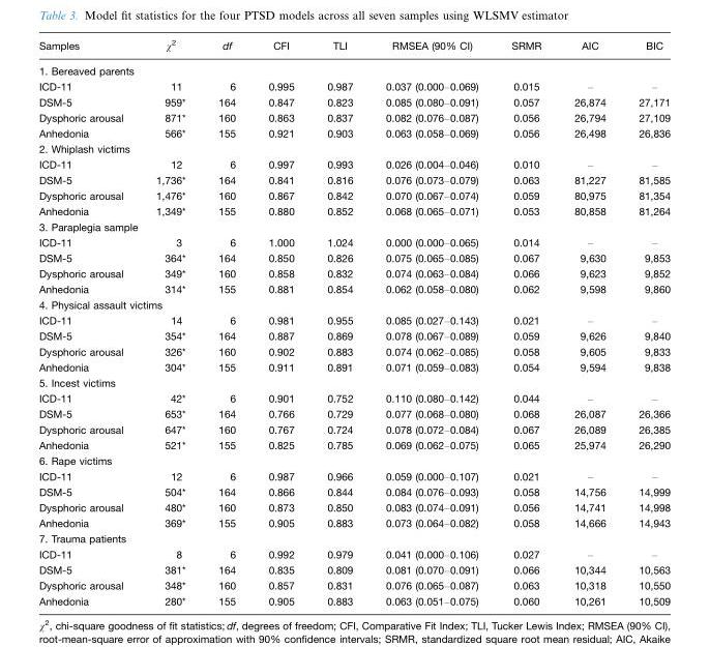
<table><thead><tr><td>Samples</td><td>χ<sup>2</sup></td><td>df</td><td>CFI</td><td>TLI</td><td>RMSEA (90% CI)</td><td>SRMR</td><td>AIC</td><td>BIC</td></tr></thead><tbody><tr><td colspan="9">1. Bereaved parents</td></tr><tr><td>ICD-11</td><td>11</td><td>6</td><td>0.995</td><td>0.987</td><td>0.037 (0.000–0.069)</td><td>0.015</td><td>–</td><td>–</td></tr><tr><td>DSM-5</td><td>959*</td><td>164</td><td>0.847</td><td>0.823</td><td>0.085 (0.080–0.091)</td><td>0.057</td><td>26,874</td><td>27,171</td></tr><tr><td>Dysphoric arousal</td><td>871*</td><td>160</td><td>0.863</td><td>0.837</td><td>0.082 (0.076–0.087)</td><td>0.056</td><td>26,794</td><td>27,109</td></tr><tr><td>Anhedonia</td><td>566*</td><td>155</td><td>0.921</td><td>0.903</td><td>0.063 (0.058–0.069)</td><td>0.056</td><td>26,498</td><td>26,836</td></tr><tr><td colspan="9">2. Whiplash victims</td></tr><tr><td>ICD-11</td><td>12</td><td>6</td><td>0.997</td><td>0.993</td><td>0.026 (0.004–0.046)</td><td>0.010</td><td>–</td><td>–</td></tr><tr><td>DSM-5</td><td>1,736*</td><td>164</td><td>0.841</td><td>0.816</td><td>0.076 (0.073–0.079)</td><td>0.063</td><td>81,227</td><td>81,585</td></tr><tr><td>Dysphoric arousal</td><td>1,476*</td><td>160</td><td>0.867</td><td>0.842</td><td>0.070 (0.067–0.074)</td><td>0.059</td><td>80,975</td><td>81,354</td></tr><tr><td>Anhedonia</td><td>1,349*</td><td>155</td><td>0.880</td><td>0.852</td><td>0.068 (0.065–0.071)</td><td>0.053</td><td>80,858</td><td>81,264</td></tr><tr><td colspan="9">3. Paraplegia sample</td></tr><tr><td>ICD-11</td><td>3</td><td>6</td><td>1.000</td><td>1.024</td><td>0.000 (0.000–0.065)</td><td>0.014</td><td>–</td><td>–</td></tr><tr><td>DSM-5</td><td>364*</td><td>164</td><td>0.850</td><td>0.826</td><td>0.075 (0.065–0.085)</td><td>0.067</td><td>9,630</td><td>9,853</td></tr><tr><td>Dysphoric arousal</td><td>349*</td><td>160</td><td>0.858</td><td>0.832</td><td>0.074 (0.063–0.084)</td><td>0.066</td><td>9,623</td><td>9,852</td></tr><tr><td>Anhedonia</td><td>314*</td><td>155</td><td>0.881</td><td>0.854</td><td>0.062 (0.058–0.080)</td><td>0.062</td><td>9,598</td><td>9,860</td></tr><tr><td colspan="9">4. Physical assault victims</td></tr><tr><td>ICD-11</td><td>14</td><td>6</td><td>0.981</td><td>0.955</td><td>0.085 (0.027–0.143)</td><td>0.021</td><td>–</td><td>–</td></tr><tr><td>DSM-5</td><td>354*</td><td>164</td><td>0.887</td><td>0.869</td><td>0.078 (0.067–0.089)</td><td>0.059</td><td>9,626</td><td>9,840</td></tr><tr><td>Dysphoric arousal</td><td>326*</td><td>160</td><td>0.902</td><td>0.883</td><td>0.074 (0.062–0.085)</td><td>0.058</td><td>9,605</td><td>9,833</td></tr><tr><td>Anhedonia</td><td>304*</td><td>155</td><td>0.911</td><td>0.891</td><td>0.071 (0.059–0.083)</td><td>0.054</td><td>9,594</td><td>9,838</td></tr><tr><td colspan="9">5. Incest victims</td></tr><tr><td>ICD-11</td><td>42*</td><td>6</td><td>0.901</td><td>0.752</td><td>0.110 (0.080–0.142)</td><td>0.044</td><td>–</td><td>–</td></tr><tr><td>DSM-5</td><td>653*</td><td>164</td><td>0.766</td><td>0.729</td><td>0.077 (0.068–0.080)</td><td>0.068</td><td>26,087</td><td>26,366</td></tr><tr><td>Dysphoric arousal</td><td>647*</td><td>160</td><td>0.767</td><td>0.724</td><td>0.078 (0.072–0.084)</td><td>0.067</td><td>26,089</td><td>26,385</td></tr><tr><td>Anhedonia</td><td>521*</td><td>155</td><td>0.825</td><td>0.785</td><td>0.069 (0.062–0.075)</td><td>0.065</td><td>25,974</td><td>26,290</td></tr><tr><td colspan="9">6. Rape victims</td></tr><tr><td>ICD-11</td><td>12</td><td>6</td><td>0.987</td><td>0.966</td><td>0.059 (0.000–0.107)</td><td>0.021</td><td>–</td><td>–</td></tr><tr><td>DSM-5</td><td>504*</td><td>164</td><td>0.866</td><td>0.844</td><td>0.084 (0.076–0.093)</td><td>0.058</td><td>14,756</td><td>14,999</td></tr><tr><td>Dysphoric arousal</td><td>480*</td><td>160</td><td>0.873</td><td>0.850</td><td>0.083 (0.074–0.091)</td><td>0.056</td><td>14,741</td><td>14,998</td></tr><tr><td>Anhedonia</td><td>369*</td><td>155</td><td>0.905</td><td>0.883</td><td>0.073 (0.064–0.082)</td><td>0.058</td><td>14,666</td><td>14,943</td></tr><tr><td colspan="9">7. Trauma patients</td></tr><tr><td>ICD-11</td><td>8</td><td>6</td><td>0.992</td><td>0.979</td><td>0.041 (0.000–0.106)</td><td>0.027</td><td>–</td><td>–</td></tr><tr><td>DSM-5</td><td>381*</td><td>164</td><td>0.835</td><td>0.809</td><td>0.081 (0.070–0.091)</td><td>0.066</td><td>10,344</td><td>10,563</td></tr><tr><td>Dysphoric arousal</td><td>348*</td><td>160</td><td>0.857</td><td>0.831</td><td>0.076 (0.065–0.087)</td><td>0.063</td><td>10,318</td><td>10,550</td></tr><tr><td>Anhedonia</td><td>280*</td><td>155</td><td>0.905</td><td>0.883</td><td>0.063 (0.051–0.075)</td><td>0.060</td><td>10,261</td><td>10,509</td></tr></tbody></table>